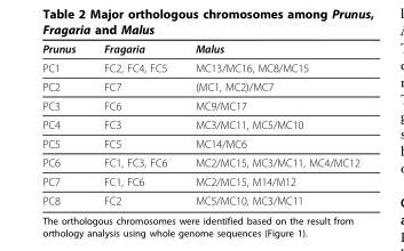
<table><thead><tr><td>Prunus</td><td>Fragaria</td><td>Malus</td></tr></thead><tbody><tr><td>PC1</td><td>FC2, FC4, FC5</td><td>MC13/MC16, MC8/MC15</td></tr><tr><td>PC2</td><td>FC7</td><td>(MC1, MC2)/MC7</td></tr><tr><td>PC3</td><td>FC6</td><td>MC9/MC17</td></tr><tr><td>PC4</td><td>FC3</td><td>MC3/MC11, MC5/MC10</td></tr><tr><td>PC5</td><td>FC5</td><td>MC14/MC6</td></tr><tr><td>PC6</td><td>FC1, FC3, FC6</td><td>MC2/MC15, MC3/MC11, MC4/MC12</td></tr><tr><td>PC7</td><td>FC1, FC6</td><td>MC2/MC15, M14/M12</td></tr><tr><td>PC8</td><td>FC2</td><td>MC5/MC10, MC3/MC11</td></tr></tbody></table>